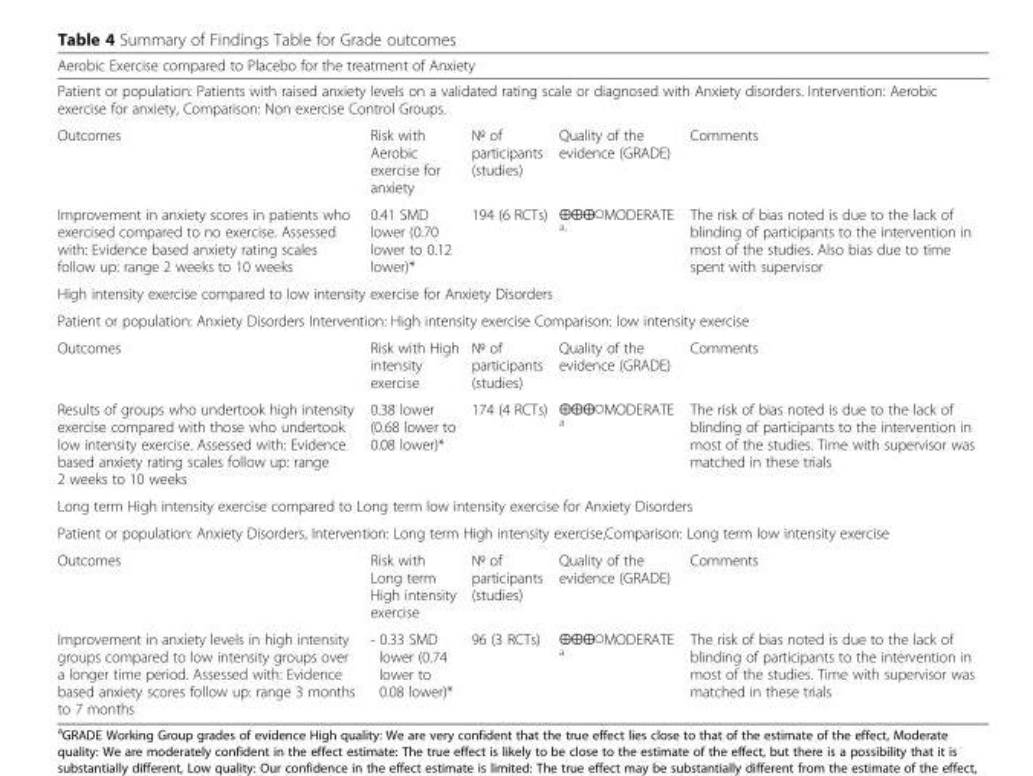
<table><thead><tr><td rowspan="2" colspan="5">Aerobic Exercise compared to Placebo for the treatment of Anxiety Patient or population: Patients with raised anxiety levels on a validated rating scale or diagnosed with Anxiety disorders. Intervention: Aerobic exercise for anxiety, Comparison: Non exercise Control Groups.</td></tr><tr></tr><tr><td>Outcomes</td><td>Risk with Aerobic exercise for anxiety</td><td>№ of participants (studies)</td><td>Quality of the evidence (GRADE)</td><td>Comments</td></tr></thead><tbody><tr><td>Improvement in anxiety scores in patients who exercised compared to no exercise. Assessed with: Evidence based anxiety rating scales follow up: range 2 weeks to 10 weeks</td><td>0.41 SMD lower (0.70 lower to 0.12 lower)*</td><td>194 (6 RCTs)</td><td>⨁⨁⨁◯MODERATE <sup>a,</sup></td><td>The risk of bias noted is due to the lack of blinding of participants to the intervention in most of the studies. Also bias due to time spent with supervisor</td></tr><tr><td colspan="5">High intensity exercise compared to low intensity exercise for Anxiety Disorders</td></tr><tr><td colspan="5">Patient or population: Anxiety Disorders Intervention: High intensity exercise Comparison: low intensity exercise</td></tr><tr><td>Outcomes</td><td>Risk with High intensity exercise</td><td>№ of participants (studies)</td><td>Quality of the evidence (GRADE)</td><td>Comments</td></tr><tr><td>Results of groups who undertook high intensity exercise compared with those who undertook low intensity exercise. Assessed with: Evidence based anxiety rating scales follow up: range 2 weeks to 10 weeks</td><td>0.38 lower (0.68 lower to 0.08 lower)*</td><td>174 (4 RCTs)</td><td>⨁⨁⨁◯MODERATE <sup>a</sup></td><td>The risk of bias noted is due to the lack of blinding of participants to the intervention in most of the studies. Time with supervisor was matched in these trials</td></tr><tr><td colspan="5">Long term High intensity exercise compared to Long term low intensity exercise for Anxiety Disorders</td></tr><tr><td colspan="5">Patient or population: Anxiety Disorders, Intervention: Long term High intensity exercise,Comparison: Long term low intensity exercise</td></tr><tr><td>Outcomes</td><td>Risk with Long term High intensity exercise</td><td>№ of participants (studies)</td><td>Quality of the evidence (GRADE)</td><td>Comments</td></tr><tr><td>Improvement in anxiety levels in high intensity groups compared to low intensity groups over a longer time period. Assessed with: Evidence based anxiety scores follow up: range 3 months to 7 months</td><td>- 0.33 SMD lower (0.74 lower to 0.08 lower)*</td><td>96 (3 RCTs)</td><td>⨁⨁⨁◯MODERATE <sup>a</sup></td><td>The risk of bias noted is due to the lack of blinding of participants to the intervention in most of the studies. Time with supervisor was matched in these trials</td></tr></tbody></table>